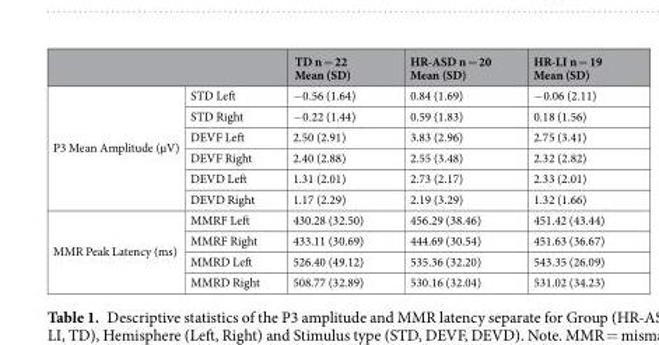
<table><thead><tr><td></td><td></td><td>TD n = 22 Mean (SD)</td><td>HR-ASD n = 20 Mean (SD)</td><td>HR-LI n = 19 Mean (SD)</td></tr></thead><tbody><tr><td rowspan="6">P3 Mean Amplitude (µV)</td><td>STD Left</td><td>−0.56 (1.64)</td><td>0.84 (1.69)</td><td>−0.06 (2.11)</td></tr><tr><td>STD Right</td><td>−0.22 (1.44)</td><td>0.59 (1.83)</td><td>0.18 (1.56)</td></tr><tr><td>DEVF Left</td><td>2.50 (2.91)</td><td>3.83 (2.96)</td><td>2.75 (3.41)</td></tr><tr><td>DEVF Right</td><td>2.40 (2.88)</td><td>2.55 (3.48)</td><td>2.32 (2.82)</td></tr><tr><td>DEVD Left</td><td>1.31 (2.01)</td><td>2.73 (2.17)</td><td>2.33 (2.01)</td></tr><tr><td>DEVD Right</td><td>1.17 (2.29)</td><td>2.19 (3.29)</td><td>1.32 (1.66)</td></tr><tr><td rowspan="4">MMR Peak Latency (ms)</td><td>MMRF Left</td><td>430.28 (32.50)</td><td>456.29 (38.46)</td><td>451.42 (43.44)</td></tr><tr><td>MMRF Right</td><td>433.11 (30.69)</td><td>444.69 (30.54)</td><td>451.63 (36.67)</td></tr><tr><td>MMRD Left</td><td>526.40 (49.12)</td><td>535.36 (32.20)</td><td>543.35 (26.09)</td></tr><tr><td>MMRD Right</td><td>508.77 (32.89)</td><td>530.16 (32.04)</td><td>531.02 (34.23)</td></tr></tbody></table>